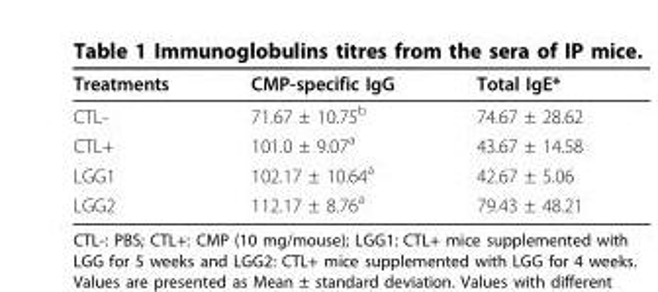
<table><thead><tr><td>Treatments</td><td>CMP-specific IgG</td><td>Total IgE*</td></tr></thead><tbody><tr><td>CTL-</td><td>71.67 ± 10.75<sup>b</sup></td><td>74.67 ± 28.62</td></tr><tr><td>CTL+</td><td>101.0 ± 9.07<sup>a</sup></td><td>43.67 ± 14.58</td></tr><tr><td>LGG1</td><td>102.17 ± 10.64<sup>a</sup></td><td>42.67 ± 5.06</td></tr><tr><td>LGG2</td><td>112.17 ± 8.76<sup>a</sup></td><td>79.43 ± 48.21</td></tr></tbody></table>